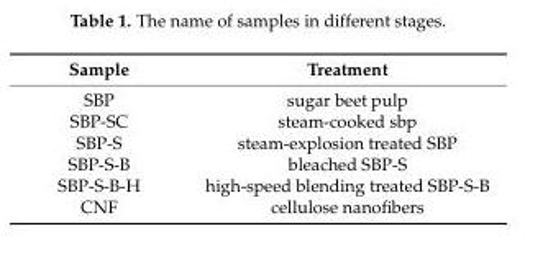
<table><thead><tr><td>Sample</td><td>Treatment</td></tr></thead><tbody><tr><td>SBP</td><td>sugar beet pulp</td></tr><tr><td>SBP-SC</td><td>steam-cooked sbp</td></tr><tr><td>SBP-S</td><td>steam-explosion treated SBP</td></tr><tr><td>SBP-S-B</td><td>bleached SBP-S</td></tr><tr><td>SBP-S-B-H</td><td>high-speed blending treated SBP-S-B</td></tr><tr><td>CNF</td><td>cellulose nanofibers</td></tr></tbody></table>